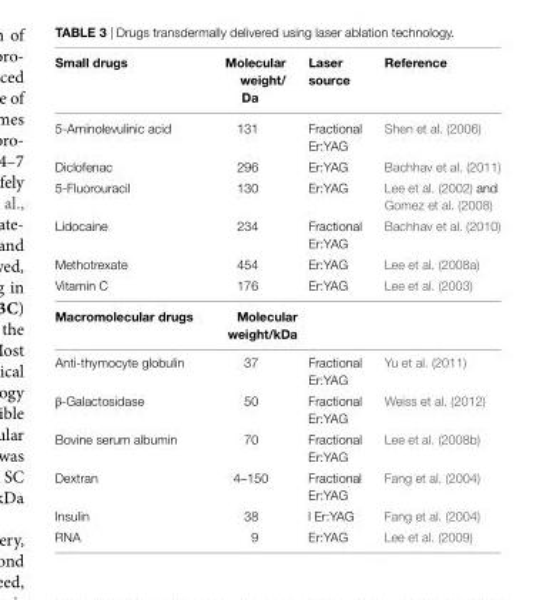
<table><thead><tr><td>Small drugs</td><td>Molecular weight/ Da</td><td>laser source</td><td>Reference</td></tr></thead><tbody><tr><td>5-Aminolevulinic acid</td><td>131</td><td>Fractional Er:YAG</td><td>Shen et al. (2006)</td></tr><tr><td>Diclofenac</td><td>296</td><td>Er:YAG</td><td>Bachhav et al. (2011)</td></tr><tr><td>5-Fluorouracil</td><td>130</td><td>Er:YAG</td><td>Lee et al. (2002) and Gomez et al. (2008)</td></tr><tr><td>Lidocaine</td><td>234</td><td>Fractional Er:YAG</td><td>Bachhav et al. (2010)</td></tr><tr><td>Methotrexate</td><td>454</td><td>Er:YAG</td><td>Lee et al. (2008a)</td></tr><tr><td>Vitamin C</td><td>176</td><td>Er:YAG</td><td>Lee et al. (2003)</td></tr><tr><td>Macromolecular drugs</td><td>Molecular weight/kDa</td><td></td><td></td></tr><tr><td>Anti-thymocyte globulin</td><td>37</td><td>Fractional Er:YAG</td><td>Yu et al. (2011)</td></tr><tr><td>β-Galactosidase</td><td>50</td><td>Fractional Er:YAG</td><td>Weiss et al. (2012)</td></tr><tr><td>Bovine serum albumin</td><td>70</td><td>Fractional Er:YAG</td><td>Lee et al. (2008b)</td></tr><tr><td>Dextran</td><td>4–150</td><td>Fractional Er:YAG</td><td>Fang et al. (2004)</td></tr><tr><td>Insulin</td><td>38</td><td>l Er:YAG</td><td>Fang et al. (2004)</td></tr><tr><td>RNA</td><td>9</td><td>Er:YAG</td><td>Lee et al. (2009)</td></tr></tbody></table>